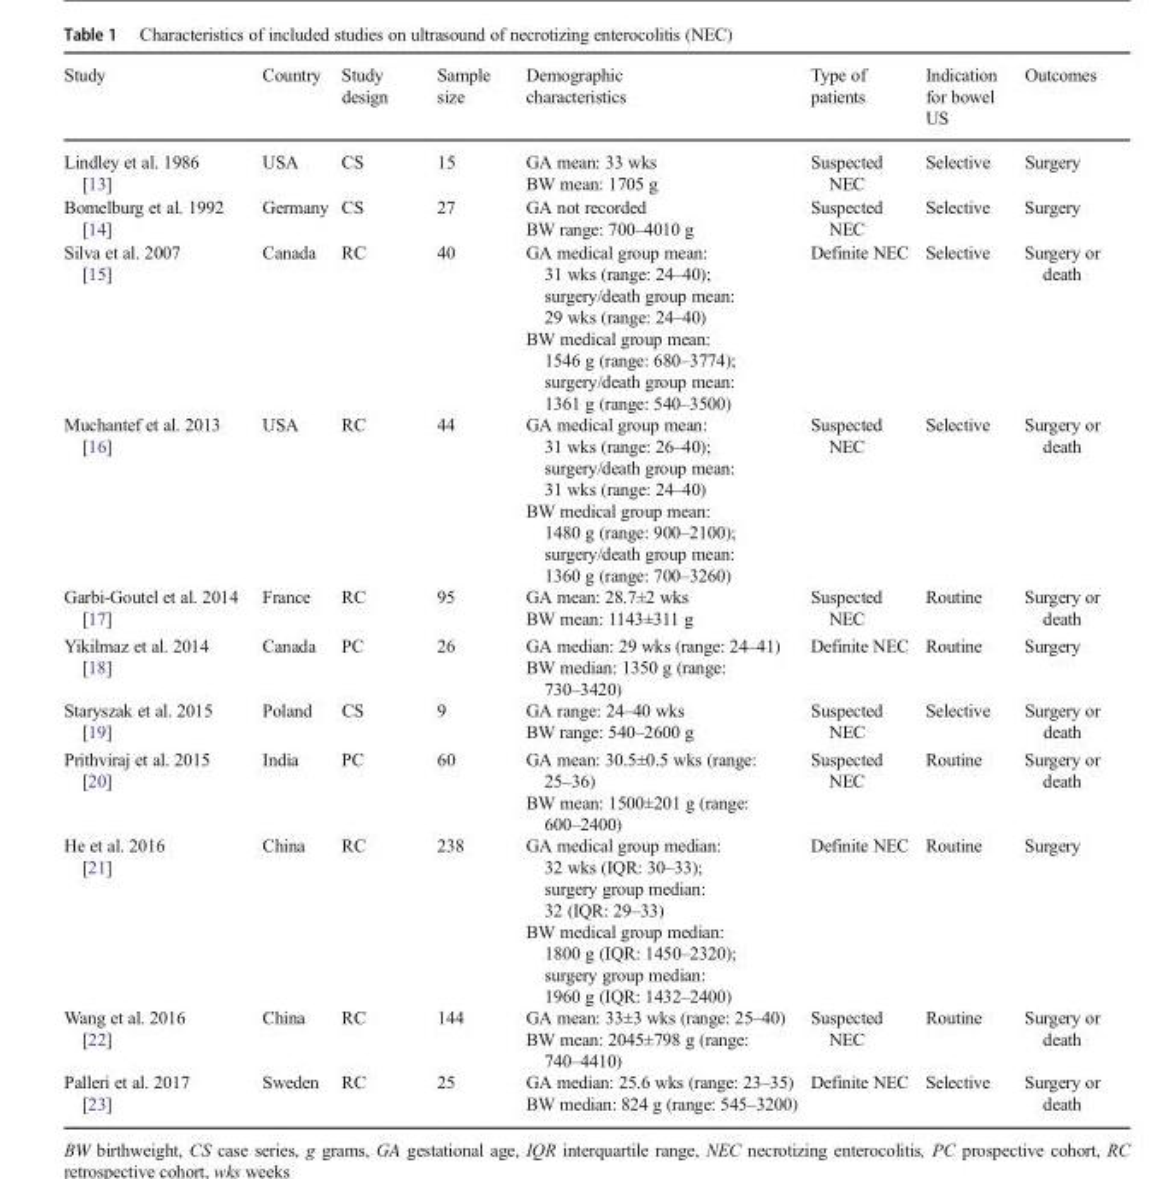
<table><thead><tr><td>Study</td><td>Country</td><td>Study design</td><td>Sample size</td><td>Demographic characteristics</td><td>Type of patients</td><td>Indication for bowel US</td><td>Outcomes</td></tr></thead><tbody><tr><td>Lindley et al. 1986 [13]</td><td>USA</td><td>CS</td><td>15</td><td>GA mean: 33 wks BW mean: 1705 g</td><td>Suspected NEC</td><td>Selective</td><td>Surgery</td></tr><tr><td>Bomelburg et al. 1992 [14]</td><td>Germany</td><td>CS</td><td>27</td><td>GA not recorded BW range: 700–4010 g</td><td>Suspected NEC</td><td>Selective</td><td>Surgery</td></tr><tr><td>Silva et al. 2007 [15]</td><td>Canada</td><td>RC</td><td>40</td><td>GA medical group mean: 31 wks (range: 24–40); surgery/death group mean: 29 wks (range: 24–40) BW medical group mean: 1546 g (range: 680–3774); surgery/death group mean: 1361 g (range: 540–3500)</td><td>Definite NEC</td><td>Selective</td><td>Surgery or death</td></tr><tr><td>Muchantef et al. 2013 [16]</td><td>USA</td><td>RC</td><td>44</td><td>GA medical group mean: 31 wks (range: 26–40); surgery/death group mean: 31 wks (range: 24–40) BW medical group mean: 1480 g (range: 900–2100); surgery/death group mean: 1360 g (range: 700–3260)</td><td>Suspected NEC</td><td>Selective</td><td>Surgery or death</td></tr><tr><td>Garbi-Goutel et al. 2014 [17]</td><td>France</td><td>RC</td><td>95</td><td>GA mean: 28.7±2 wks BW mean: 1143±311 g</td><td>Suspected NEC</td><td>Routine</td><td>Surgery or death</td></tr><tr><td>Yikilmaz et al. 2014 [18]</td><td>Canada</td><td>PC</td><td>26</td><td>GA median: 29 wks (range: 24–41) BW median: 1350 g (range: 730–3420)</td><td>Definite NEC</td><td>Routine</td><td>Surgery</td></tr><tr><td>Staryszak et al. 2015 [19]</td><td>Poland</td><td>CS</td><td>9</td><td>GA range: 24–40 wks BW range: 540–2600 g</td><td>Suspected NEC</td><td>Selective</td><td>Surgery or death</td></tr><tr><td>Prithviraj et al. 2015 [20]</td><td>India</td><td>PC</td><td>60</td><td>GA mean: 30.5±0.5 wks (range: 25–36) BW mean: 1500±201 g (range: 600–2400)</td><td>Suspected NEC</td><td>Routine</td><td>Surgery or death</td></tr><tr><td>He et al. 2016 [21]</td><td>China</td><td>RC</td><td>238</td><td>GA medical group median: 32 wks (IQR: 30–33); surgery group median: 32 (IQR: 29–33) BW medical group median: 1800 g (IQR: 1450–2320); surgery group median: 1960 g (IQR: 1432–2400)</td><td>Definite NEC</td><td>Routine</td><td>Surgery</td></tr><tr><td>Wang et al. 2016 [22]</td><td>China</td><td>RC</td><td>144</td><td>GA mean: 33±3 wks (range: 25–40) BW mean: 2045±798 g (range: 740–4410)</td><td>Suspected NEC</td><td>Routine</td><td>Surgery or death</td></tr><tr><td>Palleri et al. 2017 [23]</td><td>Sweden</td><td>RC</td><td>25</td><td>GA median: 25.6 wks (range: 23–35) BW median: 824 g (range: 545–3200)</td><td>Definite NEC</td><td>Selective</td><td>Surgery or death</td></tr></tbody></table>